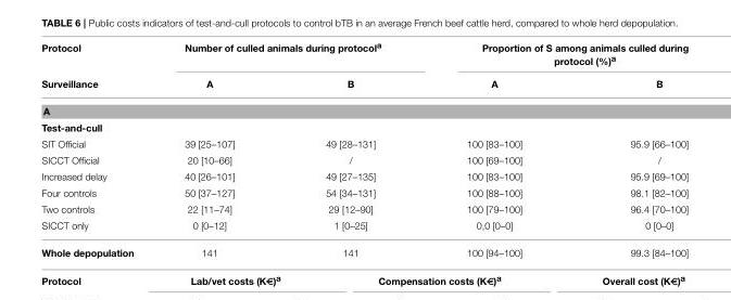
<table><thead><tr><td rowspan="2">Protocol Surveillance</td><td colspan="2">Number of culled animals during protocol<sup>a</sup></td><td colspan="2">Proportion of S among animals culled during protocol (%)<sup>a</sup></td></tr><tr><td>A</td><td>B</td><td>A</td><td>B</td></tr></thead><tbody><tr><td colspan="5">A</td></tr><tr><td colspan="5">Test-and-cull</td></tr><tr><td>SIT Official</td><td>39 [25–107]</td><td>49 [28–131]</td><td>100 [83–100]</td><td>95.9 [66–100]</td></tr><tr><td>SICCT Official</td><td>20 [10–66]</td><td>/</td><td>100 [69–100]</td><td>/</td></tr><tr><td>Increased delay</td><td>40 [26–101]</td><td>49 [27–135]</td><td>100 [83–100]</td><td>95.9 [69–100]</td></tr><tr><td>Four controls</td><td>50 [37–127]</td><td>54 [34–131]</td><td>100 [88–100]</td><td>98.1 [82–100]</td></tr><tr><td>Two controls</td><td>22 [11–74]</td><td>29 [12–90]</td><td>100 [79–100]</td><td>96.4 [70–100]</td></tr><tr><td>SICCT only</td><td>0 [0–12]</td><td>1 [0–25]</td><td>0,0 [0–0]</td><td>0 [0–0]</td></tr><tr><td>Whole depopulation</td><td>141</td><td>141</td><td>100 [94–100]</td><td>99.3 [84–100]</td></tr></tbody></table>